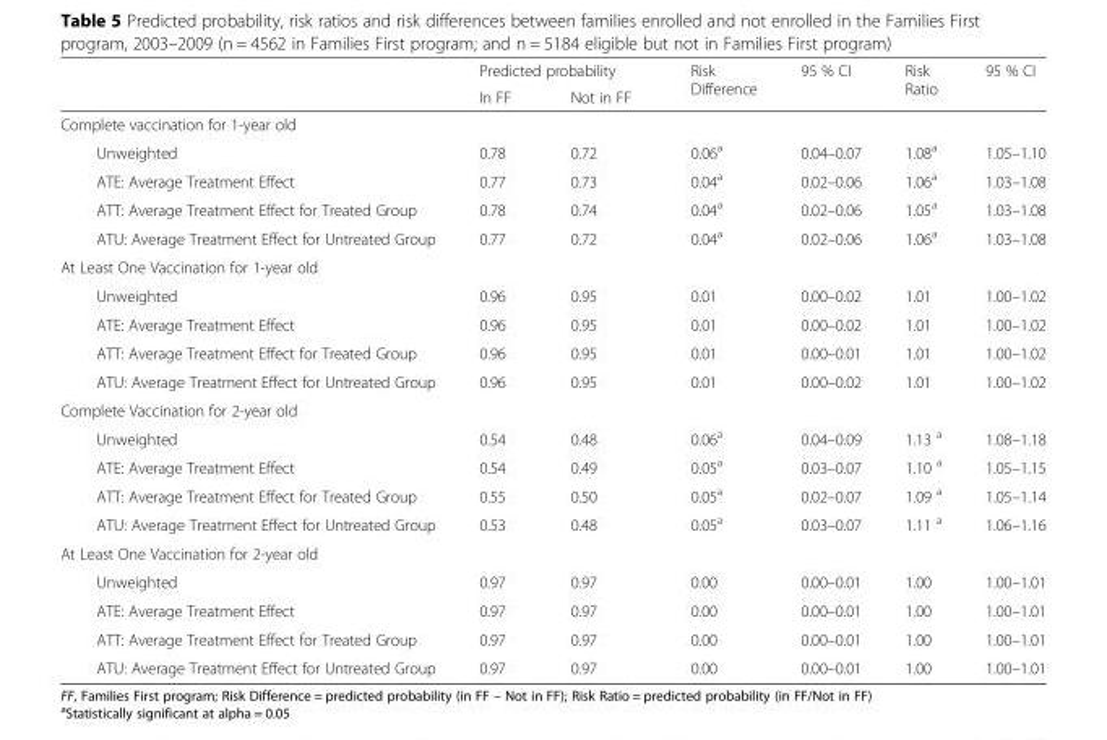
<table><thead><tr><td rowspan="2"></td><td colspan="2">Predicted probability</td><td rowspan="2">Risk Difference</td><td rowspan="2">95 % CI</td><td rowspan="2">Risk Ratio</td><td rowspan="2">95 % CI</td></tr><tr><td>In FF</td><td>Not in FF</td></tr></thead><tbody><tr><td colspan="7">Complete vaccination for 1-year old</td></tr><tr><td>Unweighted</td><td>0.78</td><td>0.72</td><td>0.06<sup>a</sup></td><td>0.04–0.07</td><td>1.08<sup>a</sup></td><td>1.05–1.10</td></tr><tr><td>ATE: Average Treatment Effect</td><td>0.77</td><td>0.73</td><td>0.04<sup>a</sup></td><td>0.02–0.06</td><td>1.06<sup>a</sup></td><td>1.03–1.08</td></tr><tr><td>ATT: Average Treatment Effect for Treated Group</td><td>0.78</td><td>0.74</td><td>0.04<sup>a</sup></td><td>0.02–0.06</td><td>1.05<sup>a</sup></td><td>1.03–1.08</td></tr><tr><td>ATU: Average Treatment Effect for Untreated Group</td><td>0.77</td><td>0.72</td><td>0.04<sup>a</sup></td><td>0.02–0.06</td><td>1.06<sup>a</sup></td><td>1.03–1.08</td></tr><tr><td colspan="7">At Least One Vaccination for 1-year old</td></tr><tr><td>Unweighted</td><td>0.96</td><td>0.95</td><td>0.01</td><td>0.00–0.02</td><td>1.01</td><td>1.00–1.02</td></tr><tr><td>ATE: Average Treatment Effect</td><td>0.96</td><td>0.95</td><td>0.01</td><td>0.00–0.02</td><td>1.01</td><td>1.00–1.02</td></tr><tr><td>ATT: Average Treatment Effect for Treated Group</td><td>0.96</td><td>0.95</td><td>0.01</td><td>0.00–0.01</td><td>1.01</td><td>1.00–1.02</td></tr><tr><td>ATU: Average Treatment Effect for Untreated Group</td><td>0.96</td><td>0.95</td><td>0.01</td><td>0.00–0.02</td><td>1.01</td><td>1.00–1.02</td></tr><tr><td colspan="7">Complete Vaccination for 2-year old</td></tr><tr><td>Unweighted</td><td>0.54</td><td>0.48</td><td>0.06<sup>a</sup></td><td>0.04–0.09</td><td>1.13 <sup>a</sup></td><td>1.08–1.18</td></tr><tr><td>ATE: Average Treatment Effect</td><td>0.54</td><td>0.49</td><td>0.05<sup>a</sup></td><td>0.03–0.07</td><td>1.10 <sup>a</sup></td><td>1.05–1.15</td></tr><tr><td>ATT: Average Treatment Effect for Treated Group</td><td>0.55</td><td>0.50</td><td>0.05<sup>a</sup></td><td>0.02–0.07</td><td>1.09 <sup>a</sup></td><td>1.05–1.14</td></tr><tr><td>ATU: Average Treatment Effect for Untreated Group</td><td>0.53</td><td>0.48</td><td>0.05<sup>a</sup></td><td>0.03–0.07</td><td>1.11 <sup>a</sup></td><td>1.06–1.16</td></tr><tr><td colspan="7">At Least One Vaccination for 2-year old</td></tr><tr><td>Unweighted</td><td>0.97</td><td>0.97</td><td>0.00</td><td>0.00–0.01</td><td>1.00</td><td>1.00–1.01</td></tr><tr><td>ATE: Average Treatment Effect</td><td>0.97</td><td>0.97</td><td>0.00</td><td>0.00–0.01</td><td>1.00</td><td>1.00–1.01</td></tr><tr><td>ATT: Average Treatment Effect for Treated Group</td><td>0.97</td><td>0.97</td><td>0.00</td><td>0.00–0.01</td><td>1.00</td><td>1.00–1.01</td></tr><tr><td>ATU: Average Treatment Effect for Untreated Group</td><td>0.97</td><td>0.97</td><td>0.00</td><td>0.00–0.01</td><td>1.00</td><td>1.00–1.01</td></tr></tbody></table>